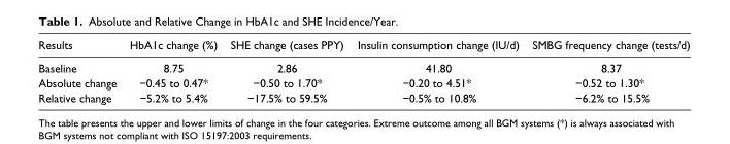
<table><thead><tr><td>Results</td><td>HbA1c change (%)</td><td>SHE change (cases PPY)</td><td>Insulin consumption change (IU/d)</td><td>SMBG frequency change (tests/d)</td></tr></thead><tbody><tr><td>Baseline</td><td>8.75</td><td>2.86</td><td>41.80</td><td>8.37</td></tr><tr><td>Absolute change</td><td>−0.45 to 0.47*</td><td>−0.50 to 1.70*</td><td>−0.20 to 4.51*</td><td>−0.52 to 1.30*</td></tr><tr><td>Relative change</td><td>−5.2% to 5.4%</td><td>−17.5% to 59.5%</td><td>−0.5% to 10.8%</td><td>−6.2% to 15.5%</td></tr></tbody></table>